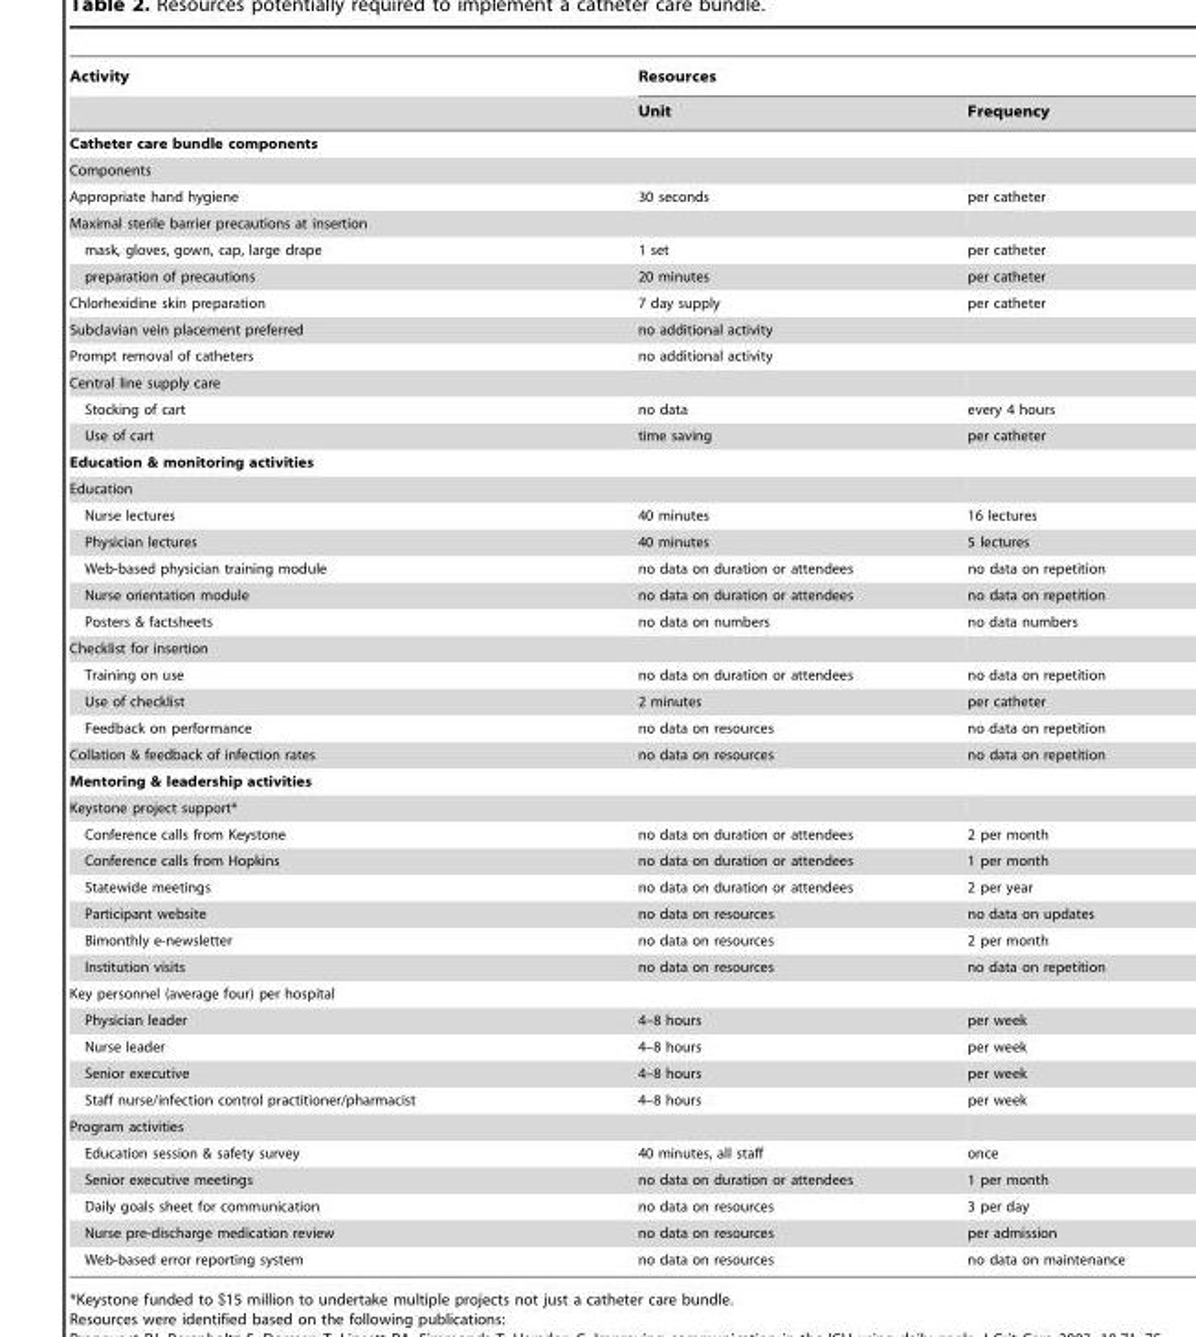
<table><thead><tr><td rowspan="2">Activity</td><td colspan="2">Resources</td></tr><tr><td>Unit</td><td>Frequency</td></tr></thead><tbody><tr><td colspan="3">Catheter care bundle components</td></tr><tr><td colspan="3">Components</td></tr><tr><td>Appropriate hand hygiene</td><td>30 seconds</td><td>per catheter</td></tr><tr><td colspan="3">Maximal sterile barrier precautions at insertion</td></tr><tr><td>mask, gloves, gown, cap, large drape</td><td>1 set</td><td>per catheter</td></tr><tr><td>preparation of precautions</td><td>20 minutes</td><td>per catheter</td></tr><tr><td>Chlorhexidine skin preparation</td><td>7 day supply</td><td>per catheter</td></tr><tr><td>Subclavian vein placement preferred</td><td>no additional activity</td><td></td></tr><tr><td>Prompt removal of catheters</td><td>no additional activity</td><td></td></tr><tr><td colspan="3">Central line supply care</td></tr><tr><td>Stocking of cart</td><td>no data</td><td>every 4 hours</td></tr><tr><td>Use of cart</td><td>time saving</td><td>per catheter</td></tr><tr><td colspan="3">Education &amp; monitoring activities</td></tr><tr><td colspan="3">Education</td></tr><tr><td>Nurse lectures</td><td>40 minutes</td><td>16 lectures</td></tr><tr><td>Physician lectures</td><td>40 minutes</td><td>5 lectures</td></tr><tr><td>Web-based physician training module</td><td>no data on duration or attendees</td><td>no data on repetition</td></tr><tr><td>Nurse orientation module</td><td>no data on duration or attendees</td><td>no data on repetition</td></tr><tr><td>Posters &amp; factsheets</td><td>no data on numbers</td><td>no data numbers</td></tr><tr><td colspan="3">Checklist for insertion</td></tr><tr><td>Training on use</td><td>no data on duration or attendees</td><td>no data on repetition</td></tr><tr><td>Use of checklist</td><td>2 minutes</td><td>per catheter</td></tr><tr><td>Feedback on performance</td><td>no data on resources</td><td>no data on repetition</td></tr><tr><td>Collation &amp; feedback of infection rates</td><td>no data on resources</td><td>no data on repetition</td></tr><tr><td colspan="3">Mentoring &amp; leadership activities</td></tr><tr><td colspan="3">Keystone project support*</td></tr><tr><td>Conference calls from Keystone</td><td>no data on duration or attendees</td><td>2 per month</td></tr><tr><td>Conference calls from Hopkins</td><td>no data on duration or attendees</td><td>1 per month</td></tr><tr><td>Statewide meetings</td><td>no data on duration or attendees</td><td>2 per year</td></tr><tr><td>Participant website</td><td>no data on resources</td><td>no data on updates</td></tr><tr><td>Bimonthly e-newsletter</td><td>no data on resources</td><td>2 per month</td></tr><tr><td>Institution visits</td><td>no data on resources</td><td>no data on repetition</td></tr><tr><td colspan="3">Key personnel (average four) per hospital</td></tr><tr><td>Physician leader</td><td>4–8 hours</td><td>per week</td></tr><tr><td>Nurse leader</td><td>4–8 hours</td><td>per week</td></tr><tr><td>Senior executive</td><td>4–8 hours</td><td>per week</td></tr><tr><td>Staff nurse/infection control practitioner/pharmacist</td><td>4–8 hours</td><td>per week</td></tr><tr><td colspan="3">Program activities</td></tr><tr><td>Education session &amp; safety survey</td><td>40 minutes, all staff</td><td>once</td></tr><tr><td>Senior executive meetings</td><td>no data on duration or attendees</td><td>1 per month</td></tr><tr><td>Daily goals sheet for communication</td><td>no data on resources</td><td>3 per day</td></tr><tr><td>Nurse pre-discharge medication review</td><td>no data on resources</td><td>per admission</td></tr><tr><td>Web-based error reporting system</td><td>no data on resources</td><td>no data on maintenance</td></tr></tbody></table>